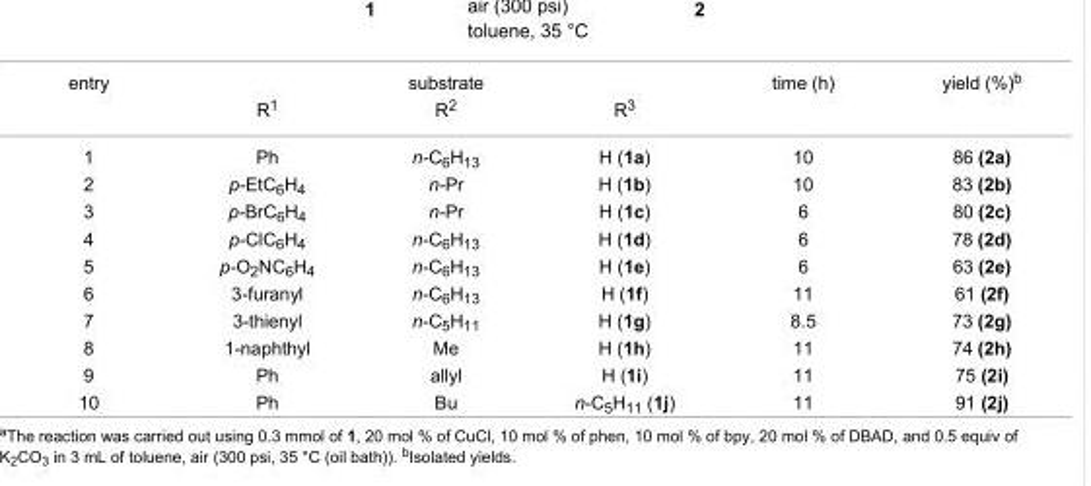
<table><tbody><tr><td rowspan="2">entry</td><td colspan="3">substrate</td><td rowspan="2">time (h)</td><td rowspan="2">yield (%)<sup>b</sup></td></tr><tr><td>R<sup>1</sup></td><td>R<sup>2</sup></td><td>R<sup>3</sup></td></tr><tr><td>1</td><td>Ph</td><td>n-C<sub>6</sub>H<sub>13</sub></td><td>H (1a)</td><td>10</td><td>86 (2a)</td></tr><tr><td>2</td><td>p-EtC<sub>6</sub>H<sub>4</sub></td><td>n-Pr</td><td>H (1b)</td><td>10</td><td>83 (2b)</td></tr><tr><td>3</td><td>p-BrC<sub>6</sub>H<sub>4</sub></td><td>n-Pr</td><td>H (1c)</td><td>6</td><td>80 (2c)</td></tr><tr><td>4</td><td>p-ClC<sub>6</sub>H<sub>4</sub></td><td>n-C<sub>6</sub>H<sub>13</sub></td><td>H (1d)</td><td>6</td><td>78 (2d)</td></tr><tr><td>5</td><td>p-O<sub>2</sub>NC<sub>6</sub>H<sub>4</sub></td><td>n-C<sub>6</sub>H<sub>13</sub></td><td>H (1e)</td><td>6</td><td>63 (2e)</td></tr><tr><td>6</td><td>3-furanyl</td><td>n-C<sub>6</sub>H<sub>13</sub></td><td>H (1f)</td><td>11</td><td>61 (2f)</td></tr><tr><td>7</td><td>3-thienyl</td><td>n-C<sub>5</sub>H<sub>11</sub></td><td>H (1g)</td><td>8.5</td><td>73 (2g)</td></tr><tr><td>8</td><td>1-naphthyl</td><td>Me</td><td>H (1h)</td><td>11</td><td>74 (2h)</td></tr><tr><td>9</td><td>Ph</td><td>allyl</td><td>H (1i)</td><td>11</td><td>75 (2i)</td></tr><tr><td>10</td><td>Ph</td><td>Bu</td><td>n-C<sub>5</sub>H<sub>11</sub> (1j)</td><td>11</td><td>91 (2j)</td></tr></tbody></table>